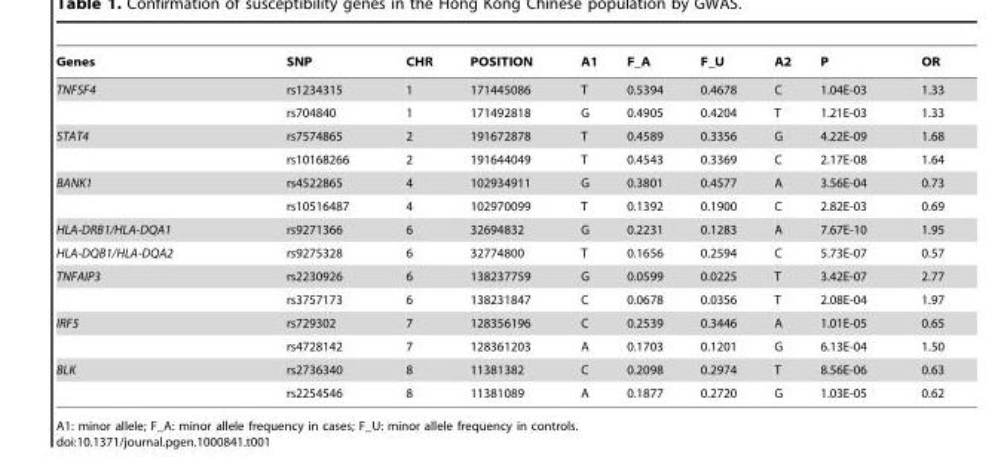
<table><thead><tr><td>Genes</td><td>SNP</td><td>CHR</td><td>POSITION</td><td>A1</td><td>F_A</td><td>F_U</td><td>A2</td><td>P</td><td>OR</td></tr></thead><tbody><tr><td rowspan="2">TNFSF4</td><td>rs1234315</td><td>1</td><td>171445086</td><td>T</td><td>0.5394</td><td>0.4678</td><td>C</td><td>1.04E-03</td><td>1.33</td></tr><tr><td>rs704840</td><td>1</td><td>171492818</td><td>G</td><td>0.4905</td><td>0.4204</td><td>T</td><td>1.21E-03</td><td>1.33</td></tr><tr><td rowspan="2">STAT4</td><td>rs7574865</td><td>2</td><td>191672878</td><td>T</td><td>0.4589</td><td>0.3356</td><td>G</td><td>4.22E-09</td><td>1.68</td></tr><tr><td>rs10168266</td><td>2</td><td>191644049</td><td>T</td><td>0.4543</td><td>0.3369</td><td>C</td><td>2.17E-08</td><td>1.64</td></tr><tr><td rowspan="2">BANK1</td><td>rs4522865</td><td>4</td><td>102934911</td><td>G</td><td>0.3801</td><td>0.4577</td><td>A</td><td>3.56E-04</td><td>0.73</td></tr><tr><td>rs10516487</td><td>4</td><td>102970099</td><td>T</td><td>0.1392</td><td>0.1900</td><td>C</td><td>2.82E-03</td><td>0.69</td></tr><tr><td>HLA-DRB1/HLA-DQA1</td><td>rs9271366</td><td>6</td><td>32694832</td><td>G</td><td>0.2231</td><td>0.1283</td><td>A</td><td>7.67E-10</td><td>1.95</td></tr><tr><td>HLA-DQB1/HLA-DQA2</td><td>rs9275328</td><td>6</td><td>32774800</td><td>T</td><td>0.1656</td><td>0.2594</td><td>C</td><td>5.73E-07</td><td>0.57</td></tr><tr><td rowspan="2">TNFAIP3</td><td>rs2230926</td><td>6</td><td>138237759</td><td>G</td><td>0.0599</td><td>0.0225</td><td>T</td><td>3.42E-07</td><td>2.77</td></tr><tr><td>rs3757173</td><td>6</td><td>138231847</td><td>C</td><td>0.0678</td><td>0.0356</td><td>T</td><td>2.08E-04</td><td>1.97</td></tr><tr><td rowspan="2">IRF5</td><td>rs729302</td><td>7</td><td>128356196</td><td>C</td><td>0.2539</td><td>0.3446</td><td>A</td><td>1.01E-05</td><td>0.65</td></tr><tr><td>rs4728142</td><td>7</td><td>128361203</td><td>A</td><td>0.1703</td><td>0.1201</td><td>G</td><td>6.13E-04</td><td>1.50</td></tr><tr><td rowspan="2">BLK</td><td>rs2736340</td><td>8</td><td>11381382</td><td>C</td><td>0.2098</td><td>0.2974</td><td>T</td><td>8.56E-06</td><td>0.63</td></tr><tr><td>rs2254546</td><td>8</td><td>11381089</td><td>A</td><td>0.1877</td><td>0.2720</td><td>G</td><td>1.03E-05</td><td>0.62</td></tr></tbody></table>